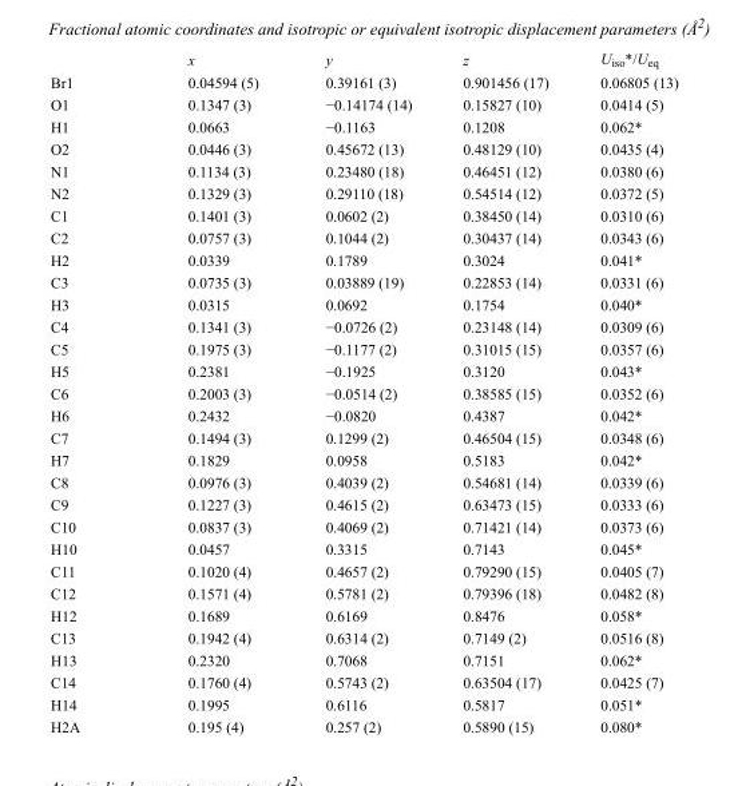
<table><thead><tr><td></td><td>x</td><td>y</td><td>z</td><td>U<sub>iso</sub>*/U<sub>eq</sub></td></tr></thead><tbody><tr><td>Br1</td><td>0.04594 (5)</td><td>0.39161 (3)</td><td>0.901456 (17)</td><td>0.06805 (13)</td></tr><tr><td>O1</td><td>0.1347 (3)</td><td>−0.14174 (14)</td><td>0.15827 (10)</td><td>0.0414 (5)</td></tr><tr><td>H1</td><td>0.0663</td><td>−0.1163</td><td>0.1208</td><td>0.062*</td></tr><tr><td>O2</td><td>0.0446 (3)</td><td>0.45672 (13)</td><td>0.48129 (10)</td><td>0.0435 (4)</td></tr><tr><td>N1</td><td>0.1134 (3)</td><td>0.23480 (18)</td><td>0.46451 (12)</td><td>0.0380 (6)</td></tr><tr><td>N2</td><td>0.1329 (3)</td><td>0.29110 (18)</td><td>0.54514 (12)</td><td>0.0372 (5)</td></tr><tr><td>C1</td><td>0.1401 (3)</td><td>0.0602 (2)</td><td>0.38450 (14)</td><td>0.0310 (6)</td></tr><tr><td>C2</td><td>0.0757 (3)</td><td>0.1044 (2)</td><td>0.30437 (14)</td><td>0.0343 (6)</td></tr><tr><td>H2</td><td>0.0339</td><td>0.1789</td><td>0.3024</td><td>0.041*</td></tr><tr><td>C3</td><td>0.0735 (3)</td><td>0.03889 (19)</td><td>0.22853 (14)</td><td>0.0331 (6)</td></tr><tr><td>H3</td><td>0.0315</td><td>0.0692</td><td>0.1754</td><td>0.040*</td></tr><tr><td>C4</td><td>0.1341 (3)</td><td>−0.0726 (2)</td><td>0.23148 (14)</td><td>0.0309 (6)</td></tr><tr><td>C5</td><td>0.1975 (3)</td><td>−0.1177 (2)</td><td>0.31015 (15)</td><td>0.0357 (6)</td></tr><tr><td>H5</td><td>0.2381</td><td>−0.1925</td><td>0.3120</td><td>0.043*</td></tr><tr><td>C6</td><td>0.2003 (3)</td><td>−0.0514 (2)</td><td>0.38585 (15)</td><td>0.0352 (6)</td></tr><tr><td>H6</td><td>0.2432</td><td>−0.0820</td><td>0.4387</td><td>0.042*</td></tr><tr><td>C7</td><td>0.1494 (3)</td><td>0.1299 (2)</td><td>0.46504 (15)</td><td>0.0348 (6)</td></tr><tr><td>H7</td><td>0.1829</td><td>0.0958</td><td>0.5183</td><td>0.042*</td></tr><tr><td>C8</td><td>0.0976 (3)</td><td>0.4039 (2)</td><td>0.54681 (14)</td><td>0.0339 (6)</td></tr><tr><td>C9</td><td>0.1227 (3)</td><td>0.4615 (2)</td><td>0.63473 (15)</td><td>0.0333 (6)</td></tr><tr><td>C10</td><td>0.0837 (3)</td><td>0.4069 (2)</td><td>0.71421 (14)</td><td>0.0373 (6)</td></tr><tr><td>H10</td><td>0.0457</td><td>0.3315</td><td>0.7143</td><td>0.045*</td></tr><tr><td>C11</td><td>0.1020 (4)</td><td>0.4657 (2)</td><td>0.79290 (15)</td><td>0.0405 (7)</td></tr><tr><td>C12</td><td>0.1571 (4)</td><td>0.5781 (2)</td><td>0.79396 (18)</td><td>0.0482 (8)</td></tr><tr><td>H12</td><td>0.1689</td><td>0.6169</td><td>0.8476</td><td>0.058*</td></tr><tr><td>C13</td><td>0.1942 (4)</td><td>0.6314 (2)</td><td>0.7149 (2)</td><td>0.0516 (8)</td></tr><tr><td>H13</td><td>0.2320</td><td>0.7068</td><td>0.7151</td><td>0.062*</td></tr><tr><td>C14</td><td>0.1760 (4)</td><td>0.5743 (2)</td><td>0.63504 (17)</td><td>0.0425 (7)</td></tr><tr><td>H14</td><td>0.1995</td><td>0.6116</td><td>0.5817</td><td>0.051*</td></tr><tr><td>H2A</td><td>0.195 (4)</td><td>0.257 (2)</td><td>0.5890 (15)</td><td>0.080*</td></tr></tbody></table>